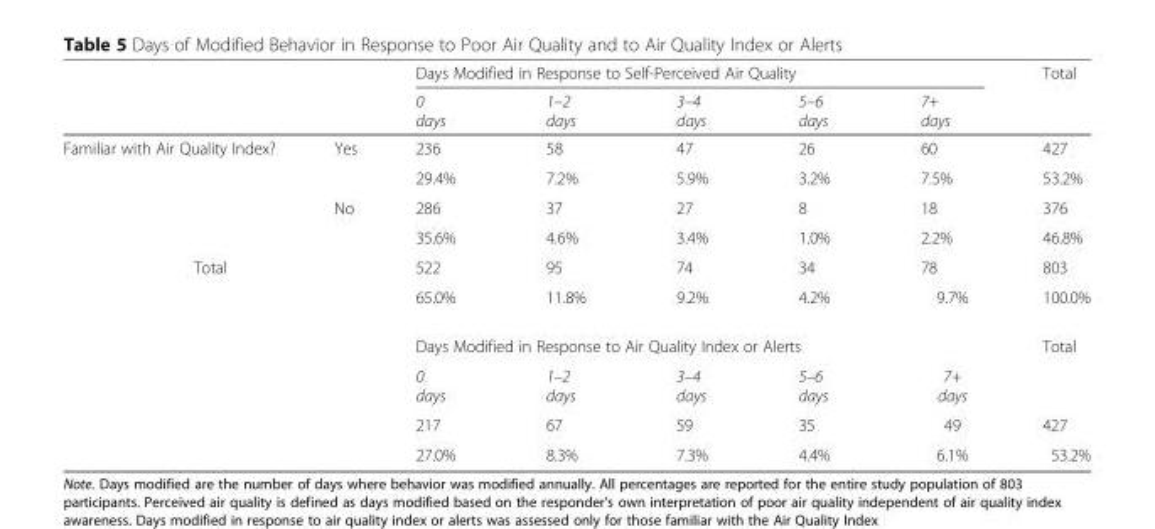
<table><thead><tr><td rowspan="2"></td><td rowspan="2"></td><td colspan="5">Days Modified in Response to Self-Perceived Air Quality</td><td rowspan="2">Total</td></tr><tr><td>0 days</td><td>1–2 days</td><td>3–4 days</td><td>5–6 days</td><td>7+ days</td></tr></thead><tbody><tr><td rowspan="4">Familiar with Air Quality Index?</td><td rowspan="2">Yes</td><td>236</td><td>58</td><td>47</td><td>26</td><td>60</td><td>427</td></tr><tr><td>29.4%</td><td>7.2%</td><td>5.9%</td><td>3.2%</td><td>7.5%</td><td>53.2%</td></tr><tr><td rowspan="2">No</td><td>286</td><td>37</td><td>27</td><td>8</td><td>18</td><td>376</td></tr><tr><td>35.6%</td><td>4.6%</td><td>3.4%</td><td>1.0%</td><td>2.2%</td><td>46.8%</td></tr><tr><td rowspan="6" colspan="2">Total</td><td>522</td><td>95</td><td>74</td><td>34</td><td>78</td><td>803</td></tr><tr><td>65.0%</td><td>11.8%</td><td>9.2%</td><td>4.2%</td><td>9.7%</td><td>100.0%</td></tr><tr><td colspan="5">Days Modified in Response to Air Quality Index or Alerts</td><td rowspan="2">Total</td></tr><tr><td>0 days</td><td>1–2 days</td><td>3–4 days</td><td>5–6 days</td><td>7+ days</td></tr><tr><td>217</td><td>67</td><td>59</td><td>35</td><td>49</td><td>427</td></tr><tr><td>27.0%</td><td>8.3%</td><td>7.3%</td><td>4.4%</td><td>6.1%</td><td>53.2%</td></tr></tbody></table>